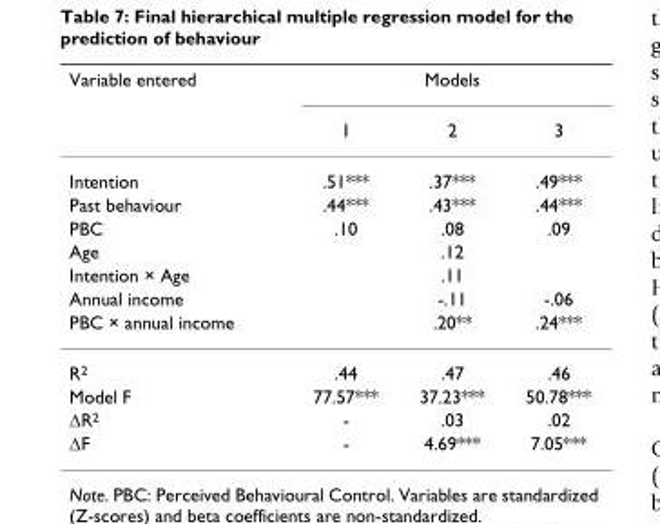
<table><thead><tr><td rowspan="2">Variable entered</td><td colspan="3">Models</td></tr><tr><td>1</td><td>2</td><td>3</td></tr></thead><tbody><tr><td>Intention</td><td>.51***</td><td>.37***</td><td>.49***</td></tr><tr><td>Past behaviour</td><td>.44***</td><td>.43***</td><td>.44***</td></tr><tr><td>PBC</td><td>.10</td><td>.08</td><td>.09</td></tr><tr><td>Age</td><td></td><td>.12</td><td></td></tr><tr><td>Intention × Age</td><td></td><td>.11</td><td></td></tr><tr><td>Annual income</td><td></td><td>-.11</td><td>-.06</td></tr><tr><td>PBC × annual income</td><td></td><td>.20**</td><td>.24***</td></tr><tr><td>R<sup>2</sup></td><td>.44</td><td>.47</td><td>.46</td></tr><tr><td>Model F</td><td>77.57***</td><td>37.23***</td><td>50.78***</td></tr><tr><td>∆R2</td><td>-</td><td>.03</td><td>.02</td></tr><tr><td>∆F</td><td>-</td><td>4.69***</td><td>7.05***</td></tr></tbody></table>